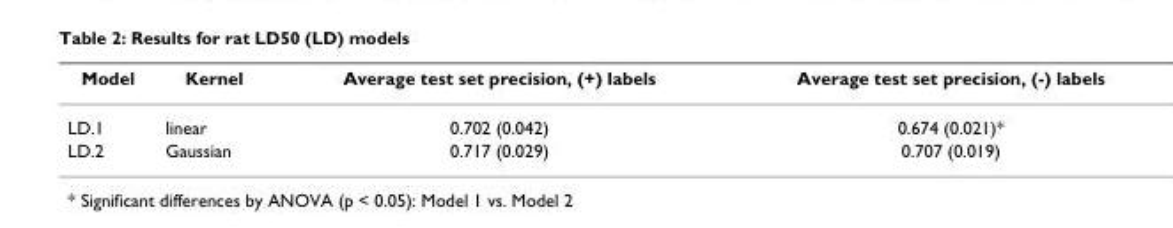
<table><thead><tr><td>Model</td><td>Kernel</td><td>Average test set precision, (+) labels</td><td>Average test set precision, (-) labels</td></tr></thead><tbody><tr><td>LD.1</td><td>linear</td><td>0.702 (0.042)</td><td>0.674 (0.021)*</td></tr><tr><td>LD.2</td><td>Gaussian</td><td>0.717 (0.029)</td><td>0.707 (0.019)</td></tr></tbody></table>